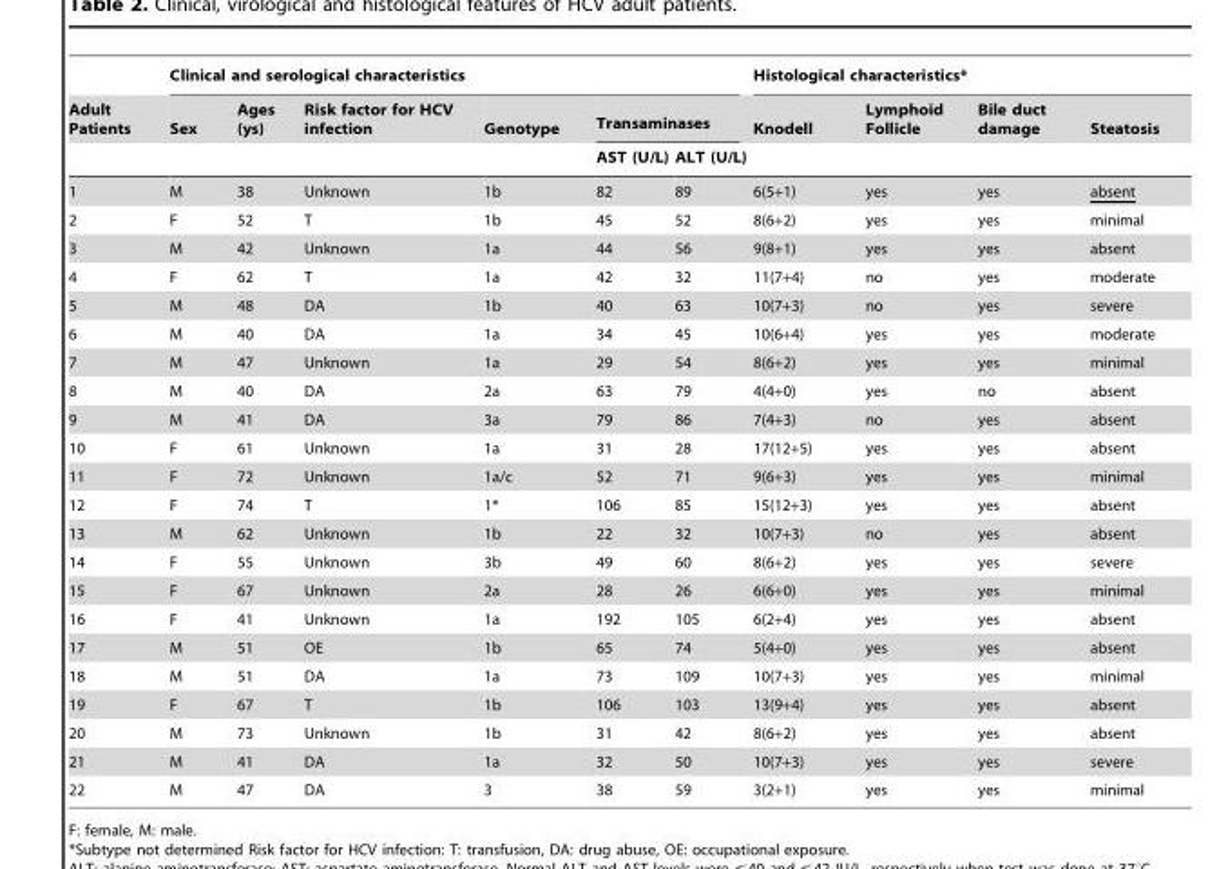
<table><thead><tr><td rowspan="3">Adult Patients</td><td colspan="6">Clinical and serological characteristics</td><td colspan="4">Histological characteristics*</td></tr><tr><td rowspan="2">Sex</td><td rowspan="2">Ages (ys)</td><td rowspan="2">Risk factor for HCV infection</td><td rowspan="2">Genotype</td><td colspan="2">Transaminases</td><td rowspan="2">Knodell</td><td rowspan="2">Lymphoid Follicle</td><td rowspan="2">Bile duct damage</td><td rowspan="2">Steatosis</td></tr><tr><td>AST (U/L)</td><td>ALT (U/L)</td></tr></thead><tbody><tr><td>1</td><td>M</td><td>38</td><td>Unknown</td><td>1b</td><td>82</td><td>89</td><td>6(5+1)</td><td>yes</td><td>yes</td><td>absent</td></tr><tr><td>2</td><td>F</td><td>52</td><td>T</td><td>1b</td><td>45</td><td>52</td><td>8(6+2)</td><td>yes</td><td>yes</td><td>minimal</td></tr><tr><td>3</td><td>M</td><td>42</td><td>Unknown</td><td>1a</td><td>44</td><td>56</td><td>9(8+1)</td><td>yes</td><td>yes</td><td>absent</td></tr><tr><td>4</td><td>F</td><td>62</td><td>T</td><td>1a</td><td>42</td><td>32</td><td>11(7+4)</td><td>no</td><td>yes</td><td>moderate</td></tr><tr><td>5</td><td>M</td><td>48</td><td>DA</td><td>1b</td><td>40</td><td>63</td><td>10(7+3)</td><td>no</td><td>yes</td><td>severe</td></tr><tr><td>6</td><td>M</td><td>40</td><td>DA</td><td>1a</td><td>34</td><td>45</td><td>10(6+4)</td><td>yes</td><td>yes</td><td>moderate</td></tr><tr><td>7</td><td>M</td><td>47</td><td>Unknown</td><td>1a</td><td>29</td><td>54</td><td>8(6+2)</td><td>yes</td><td>yes</td><td>minimal</td></tr><tr><td>8</td><td>M</td><td>40</td><td>DA</td><td>2a</td><td>63</td><td>79</td><td>4(4+0)</td><td>yes</td><td>no</td><td>absent</td></tr><tr><td>9</td><td>M</td><td>41</td><td>DA</td><td>3a</td><td>79</td><td>86</td><td>7(4+3)</td><td>no</td><td>yes</td><td>absent</td></tr><tr><td>10</td><td>F</td><td>61</td><td>Unknown</td><td>1a</td><td>31</td><td>28</td><td>17(12+5)</td><td>yes</td><td>yes</td><td>absent</td></tr><tr><td>11</td><td>F</td><td>72</td><td>Unknown</td><td>1a/c</td><td>52</td><td>71</td><td>9(6+3)</td><td>yes</td><td>yes</td><td>minimal</td></tr><tr><td>12</td><td>F</td><td>74</td><td>T</td><td>1*</td><td>106</td><td>85</td><td>15(12+3)</td><td>yes</td><td>yes</td><td>absent</td></tr><tr><td>13</td><td>M</td><td>62</td><td>Unknown</td><td>1b</td><td>22</td><td>32</td><td>10(7+3)</td><td>no</td><td>yes</td><td>absent</td></tr><tr><td>14</td><td>F</td><td>55</td><td>Unknown</td><td>3b</td><td>49</td><td>60</td><td>8(6+2)</td><td>yes</td><td>yes</td><td>severe</td></tr><tr><td>15</td><td>F</td><td>67</td><td>Unknown</td><td>2a</td><td>28</td><td>26</td><td>6(6+0)</td><td>yes</td><td>yes</td><td>minimal</td></tr><tr><td>16</td><td>F</td><td>41</td><td>Unknown</td><td>1a</td><td>192</td><td>105</td><td>6(2+4)</td><td>yes</td><td>yes</td><td>absent</td></tr><tr><td>17</td><td>M</td><td>51</td><td>OE</td><td>1b</td><td>65</td><td>74</td><td>5(4+0)</td><td>yes</td><td>yes</td><td>absent</td></tr><tr><td>18</td><td>M</td><td>51</td><td>DA</td><td>1a</td><td>73</td><td>109</td><td>10(7+3)</td><td>yes</td><td>yes</td><td>minimal</td></tr><tr><td>19</td><td>F</td><td>67</td><td>T</td><td>1b</td><td>106</td><td>103</td><td>13(9+4)</td><td>yes</td><td>yes</td><td>absent</td></tr><tr><td>20</td><td>M</td><td>73</td><td>Unknown</td><td>1b</td><td>31</td><td>42</td><td>8(6+2)</td><td>yes</td><td>yes</td><td>absent</td></tr><tr><td>21</td><td>M</td><td>41</td><td>DA</td><td>1a</td><td>32</td><td>50</td><td>10(7+3)</td><td>yes</td><td>yes</td><td>severe</td></tr><tr><td>22</td><td>M</td><td>47</td><td>DA</td><td>3</td><td>38</td><td>59</td><td>3(2+1)</td><td>yes</td><td>yes</td><td>minimal</td></tr></tbody></table>